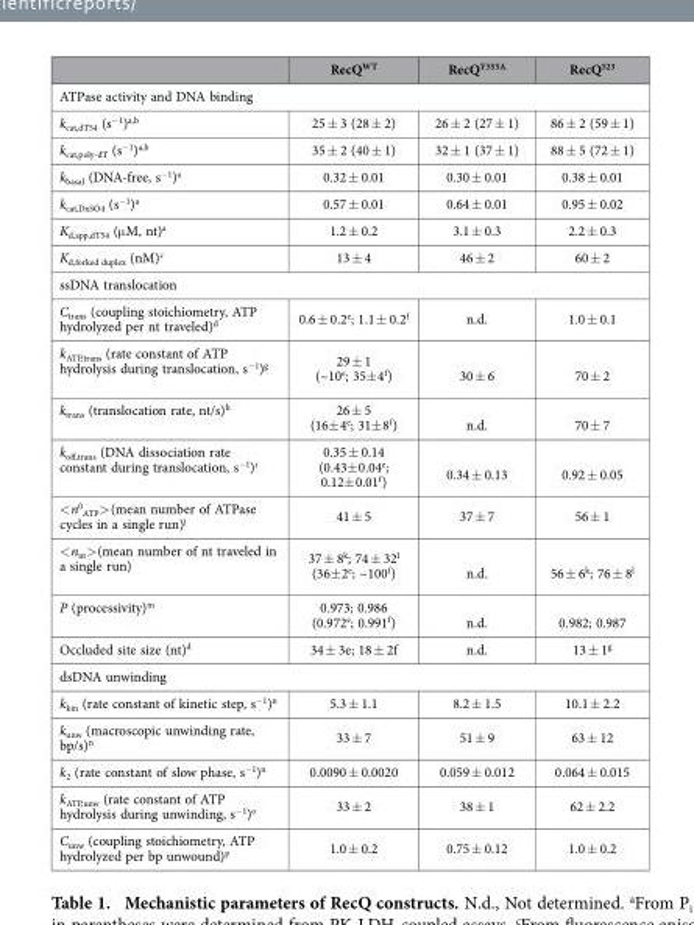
<table><thead><tr><td></td><td>RecQ<sup>WT</sup></td><td>RecQ<sup>Y555A</sup></td><td>RecQ<sup>523</sup></td></tr></thead><tbody><tr><td colspan="4">ATPase activity and DNA binding</td></tr><tr><td>k<sub>cat,dT54</sub> (s<sup>−1</sup>)<sup>a</sup>,<sup>b</sup></td><td>25 ± 3 (28 ± 2)</td><td>26 ± 2 (27 ± 1)</td><td>86 ± 2 (59 ± 1)</td></tr><tr><td>k<sub>cat,poly-dT</sub> (s<sup>−1</sup>)<sup>a</sup>,<sup>b</sup></td><td>35 ± 2 (40 ± 1)</td><td>32 ± 1 (37 ± 1)</td><td>88 ± 5 (72 ± 1)</td></tr><tr><td>k<sub>basal</sub> (DNA-free, s<sup>−1</sup>)<sup>a</sup></td><td>0.32 ± 0.01</td><td>0.30 ± 0.01</td><td>0.38 ± 0.01</td></tr><tr><td>k<sub>cat,DxSO4</sub> (s<sup>−1</sup>)<sup>a</sup></td><td>0.57 ± 0.01</td><td>0.64 ± 0.01</td><td>0.95 ± 0.02</td></tr><tr><td>K<sub>d,app,dT54</sub> (μ M, nt)<sup>a</sup></td><td>1.2 ± 0.2</td><td>3.1 ± 0.3</td><td>2.2 ± 0.3</td></tr><tr><td>K<sub>d,forked duplex</sub> (nM)<sup>c</sup></td><td>13 ± 4</td><td>46 ± 2</td><td>60 ± 2</td></tr><tr><td colspan="4">ssDNA translocation</td></tr><tr><td>C<sub>trans</sub> (coupling stoichiometry, ATP hydrolyzed per nt traveled)<sup>d</sup></td><td>0.6 ± 0.2<sup>e</sup>; 1.1 ± 0.2<sup>f</sup></td><td>n.d.</td><td>1.0 ± 0.1</td></tr><tr><td>k<sub>ATP,trans</sub> (rate constant of ATP hydrolysis during translocation, s<sup>−1</sup>)<sup>g</sup></td><td>29 ± 1 (~10<sup>e</sup>; 35± 4<sup>f</sup>)</td><td>30 ± 6</td><td>70 ± 2</td></tr><tr><td>k<sub>trans</sub> (translocation rate, nt/s)<sup>h</sup></td><td>26 ± 5 (16± 4<sup>e</sup>; 31± 8<sup>f</sup>)</td><td>n.d.</td><td>70 ± 7</td></tr><tr><td>k<sub>off,trans</sub> (DNA dissociation rate constant during translocation, s<sup>−1</sup>)<sup>i</sup></td><td>0.35 ± 0.14 (0.43± 0.04<sup>e</sup>; 0.12± 0.01<sup>f</sup>)</td><td>0.34 ± 0.13</td><td>0.92 ± 0.05</td></tr><tr><td>&lt; n<sup>0</sup> <sub>ATP</sub>&gt; (mean number of ATPase cycles in a single run)<sup>j</sup></td><td>41 ± 5</td><td>37 ± 7</td><td>56 ± 1</td></tr><tr><td>&lt; n<sub>nt</sub>&gt; (mean number of nt traveled in a single run)</td><td>37 ± 8<sup>k</sup>; 74 ± 32<sup>l</sup> (36± 2<sup>e</sup>; ~100<sup>f</sup>)</td><td>n.d.</td><td>56 ± 6<sup>k</sup>; 76 ± 8<sup>l</sup></td></tr><tr><td>P (processivity)<sup>m</sup></td><td>0.973; 0.986 (0.972<sup>e</sup>; 0.991<sup>f</sup>)</td><td>n.d.</td><td>0.982; 0.987</td></tr><tr><td>Occluded site size (nt)<sup>d</sup></td><td>34 ± 3e; 18 ± 2f</td><td>n.d.</td><td>13 ± 1<sup>g</sup></td></tr><tr><td colspan="4">dsDNA unwinding</td></tr><tr><td>k<sub>kin</sub> (rate constant of kinetic step, s<sup>−1</sup>)<sup>n</sup></td><td>5.3 ± 1.1</td><td>8.2 ± 1.5</td><td>10.1 ± 2.2</td></tr><tr><td>k<sub>unw</sub> (macroscopic unwinding rate, bp/s)<sup>n</sup></td><td>33 ± 7</td><td>51 ± 9</td><td>63 ± 12</td></tr><tr><td>k<sub>2</sub> (rate constant of slow phase, s<sup>−1</sup>)<sup>n</sup></td><td>0.0090 ± 0.0020</td><td>0.059 ± 0.012</td><td>0.064 ± 0.015</td></tr><tr><td>k<sub>ATP,unw</sub> (rate constant of ATP hydrolysis during unwinding, s<sup>−1</sup>)<sup>o</sup></td><td>33 ± 2</td><td>38 ± 1</td><td>62 ± 2.2</td></tr><tr><td>C<sub>unw</sub> (coupling stoichiometry, ATP hydrolyzed per bp unwound)<sup>p</sup></td><td>1.0 ± 0.2</td><td>0.75 ± 0.12</td><td>1.0 ± 0.2</td></tr></tbody></table>